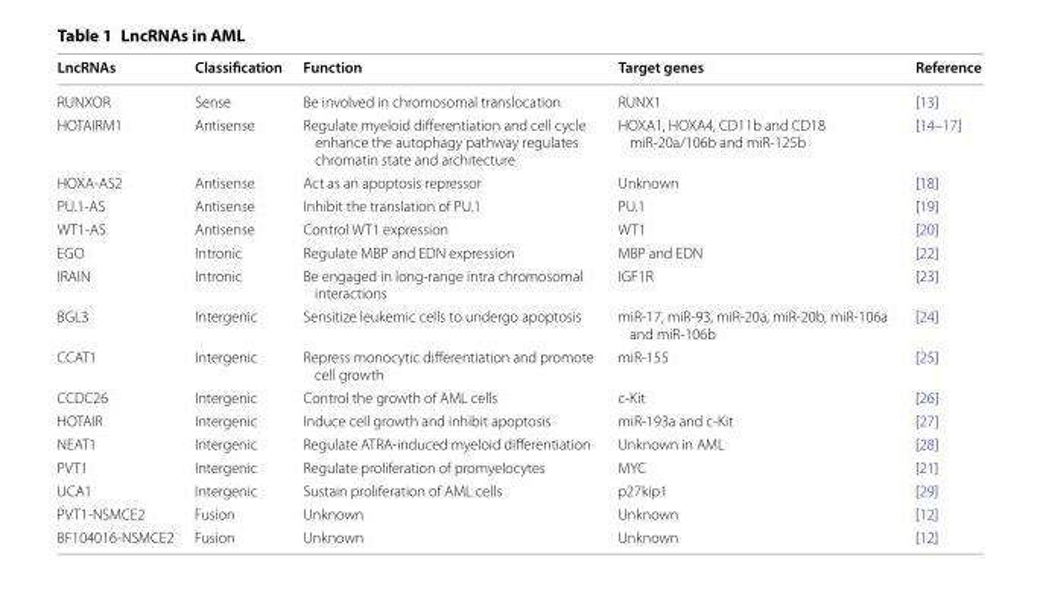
<table><thead><tr><td>LncRNAs</td><td>Classification</td><td>Function</td><td>Target genes</td><td>Reference</td></tr></thead><tbody><tr><td>RUNXOR</td><td>Sense</td><td>Be involved in chromosomal translocation</td><td>RUNX1</td><td>[13]</td></tr><tr><td>HOTAIRM1</td><td>Antisense</td><td>Regulate myeloid differentiation and cell cycle enhance the autophagy pathway regulates chromatin state and architecture</td><td>HOXA1, HOXA4, CD11b and CD18 miR-20a/106b and miR-125b</td><td>[14–17]</td></tr><tr><td>HOXA-AS2</td><td>Antisense</td><td>Act as an apoptosis repressor</td><td>Unknown</td><td>[18]</td></tr><tr><td>PU.1-AS</td><td>Antisense</td><td>Inhibit the translation of PU.1</td><td>PU.1</td><td>[19]</td></tr><tr><td>WT1-AS</td><td>Antisense</td><td>Control WT1 expression</td><td>WT1</td><td>[20]</td></tr><tr><td>EGO</td><td>Intronic</td><td>Regulate MBP and EDN expression</td><td>MBP and EDN</td><td>[22]</td></tr><tr><td>IRAIN</td><td>Intronic</td><td>Be engaged in long-range intra chromosomal interactions</td><td>IGF1R</td><td>[23]</td></tr><tr><td>BGL3</td><td>Intergenic</td><td>Sensitize leukemic cells to undergo apoptosis</td><td>miR-17, miR-93, miR-20a, miR-20b, miR-106a and miR-106b</td><td>[24]</td></tr><tr><td>CCAT1</td><td>Intergenic</td><td>Repress monocytic differentiation and promote cell growth</td><td>miR-155</td><td>[25]</td></tr><tr><td>CCDC26</td><td>Intergenic</td><td>Control the growth of AML cells</td><td>c-Kit</td><td>[26]</td></tr><tr><td>HOTAIR</td><td>Intergenic</td><td>Induce cell growth and inhibit apoptosis</td><td>miR-193a and c-Kit</td><td>[27]</td></tr><tr><td>NEAT1</td><td>Intergenic</td><td>Regulate ATRA-induced myeloid differentiation</td><td>Unknown in AML</td><td>[28]</td></tr><tr><td>PVT1</td><td>Intergenic</td><td>Regulate proliferation of promyelocytes</td><td>MYC</td><td>[21]</td></tr><tr><td>UCA1</td><td>Intergenic</td><td>Sustain proliferation of AML cells</td><td>p27kip1</td><td>[29]</td></tr><tr><td>PVT1-NSMCE2</td><td>Fusion</td><td>Unknown</td><td>Unknown</td><td>[12]</td></tr><tr><td>BF104016-NSMCE2</td><td>Fusion</td><td>Unknown</td><td>Unknown</td><td>[12]</td></tr></tbody></table>